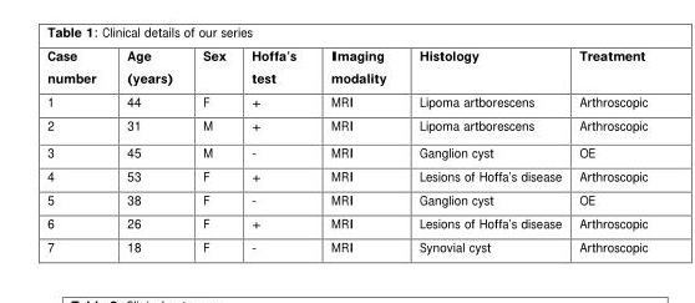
<table><thead><tr><td>Case number</td><td>Age (years)</td><td>Sex</td><td>Hoffa’s test</td><td>Imaging modality</td><td>Histology</td><td>Treatment</td></tr></thead><tbody><tr><td>1</td><td>44</td><td>F</td><td>+</td><td>MRI</td><td>Lipoma artborescens</td><td>Arthroscopic</td></tr><tr><td>2</td><td>31</td><td>M</td><td>+</td><td>MRI</td><td>Lipoma artborescens</td><td>Arthroscopic</td></tr><tr><td>3</td><td>45</td><td>M</td><td>-</td><td>MRI</td><td>Ganglion cyst</td><td>OE</td></tr><tr><td>4</td><td>53</td><td>F</td><td>+</td><td>MRI</td><td>Lesions of Hoffa’s disease</td><td>Arthroscopic</td></tr><tr><td>5</td><td>38</td><td>F</td><td>-</td><td>MRI</td><td>Ganglion cyst</td><td>OE</td></tr><tr><td>6</td><td>26</td><td>F</td><td>+</td><td>MRI</td><td>Lesions of Hoffa’s disease</td><td>Arthroscopic</td></tr><tr><td>7</td><td>18</td><td>F</td><td>-</td><td>MRI</td><td>Synovial cyst</td><td>Arthroscopic</td></tr></tbody></table>